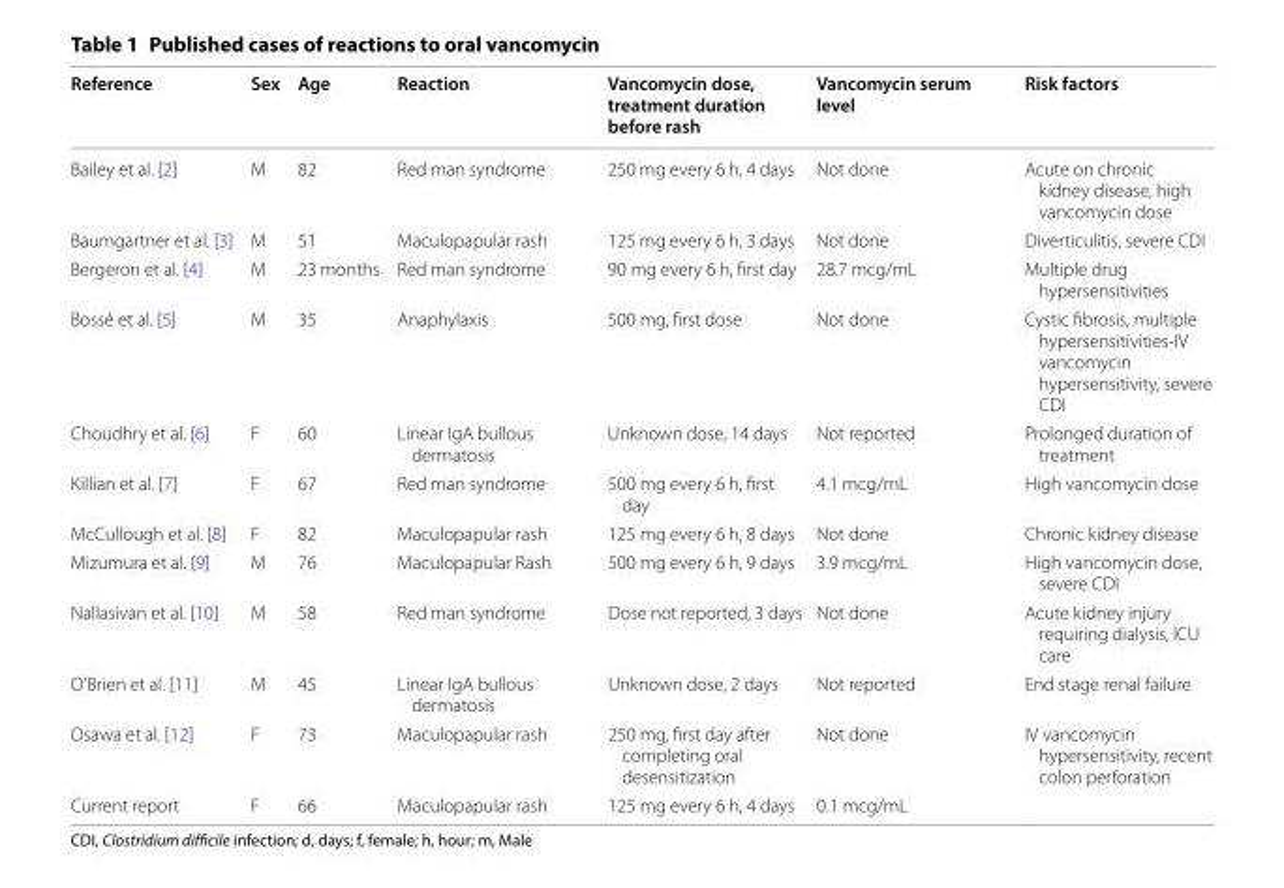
<table><thead><tr><td>Reference</td><td>Sex</td><td>Age</td><td>Reaction</td><td>Vancomycin dose, treatment duration before rash</td><td>Vancomycin serum level</td><td>Risk factors</td></tr></thead><tbody><tr><td>Bailey et al. [2]</td><td>M</td><td>82</td><td>Red man syndrome</td><td>250 mg every 6 h, 4 days</td><td>Not done</td><td>Acute on chronic kidney disease, high vancomycin dose</td></tr><tr><td>Baumgartner et al. [3]</td><td>M</td><td>51</td><td>Maculopapular rash</td><td>125 mg every 6 h, 3 days</td><td>Not done</td><td>Diverticulitis, severe CDI</td></tr><tr><td>Bergeron et al. [4]</td><td>M</td><td>23 months</td><td>Red man syndrome</td><td>90 mg every 6 h, first day</td><td>28.7 mcg/mL</td><td>Multiple drug hypersensitivities</td></tr><tr><td>Bossé et al. [5]</td><td>M</td><td>35</td><td>Anaphylaxis</td><td>500 mg, first dose</td><td>Not done</td><td>Cystic fibrosis, multiple hypersensitivities‑IV vancomycin hypersensitivity, severe CDI</td></tr><tr><td>Choudhry et al. [6]</td><td>F</td><td>60</td><td>Linear IgA bullous dermatosis</td><td>Unknown dose, 14 days</td><td>Not reported</td><td>Prolonged duration of treatment</td></tr><tr><td>Killian et al. [7]</td><td>F</td><td>67</td><td>Red man syndrome</td><td>500 mg every 6 h, first day</td><td>4.1 mcg/mL</td><td>High vancomycin dose</td></tr><tr><td>McCullough et al. [8]</td><td>F</td><td>82</td><td>Maculopapular rash</td><td>125 mg every 6 h, 8 days</td><td>Not done</td><td>Chronic kidney disease</td></tr><tr><td>Mizumura et al. [9]</td><td>M</td><td>76</td><td>Maculopapular Rash</td><td>500 mg every 6 h, 9 days</td><td>3.9 mcg/mL</td><td>High vancomycin dose, severe CDI</td></tr><tr><td>Nallasivan et al. [10]</td><td>M</td><td>58</td><td>Red man syndrome</td><td>Dose not reported, 3 days</td><td>Not done</td><td>Acute kidney injury requiring dialysis, ICU care</td></tr><tr><td>O’Brien et al. [11]</td><td>M</td><td>45</td><td>Linear IgA bullous dermatosis</td><td>Unknown dose, 2 days</td><td>Not reported</td><td>End stage renal failure</td></tr><tr><td>Osawa et al. [12]</td><td>F</td><td>73</td><td>Maculopapular rash</td><td>250 mg, first day after completing oral desensitization</td><td>Not done</td><td>IV vancomycin hypersensitivity, recent colon perforation</td></tr><tr><td>Current report</td><td>F</td><td>66</td><td>Maculopapular rash</td><td>125 mg every 6 h, 4 days</td><td>0.1 mcg/mL</td><td></td></tr></tbody></table>